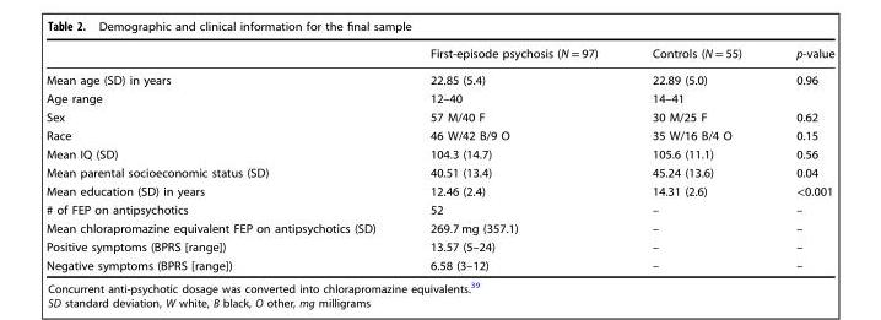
<table><thead><tr><td></td><td>First-episode psychosis (N = 97)</td><td>Controls (N = 55)</td><td>p-value</td></tr></thead><tbody><tr><td>Mean age (SD) in years</td><td>22.85 (5.4)</td><td>22.89 (5.0)</td><td>0.96</td></tr><tr><td>Age range</td><td>12–40</td><td>14–41</td><td></td></tr><tr><td>Sex</td><td>57 M/40 F</td><td>30 M/25 F</td><td>0.62</td></tr><tr><td>Race</td><td>46 W/42 B/9 O</td><td>35 W/16 B/4 O</td><td>0.15</td></tr><tr><td>Mean IQ (SD)</td><td>104.3 (14.7)</td><td>105.6 (11.1)</td><td>0.56</td></tr><tr><td>Mean parental socioeconomic status (SD)</td><td>40.51 (13.4)</td><td>45.24 (13.6)</td><td>0.04</td></tr><tr><td>Mean education (SD) in years</td><td>12.46 (2.4)</td><td>14.31 (2.6)</td><td>&lt;0.001</td></tr><tr><td># of FEP on antipsychotics</td><td>52</td><td>–</td><td>–</td></tr><tr><td>Mean chlorapromazine equivalent FEP on antipsychotics (SD)</td><td>269.7 mg (357.1)</td><td>–</td><td>–</td></tr><tr><td>Positive symptoms (BPRS [range])</td><td>13.57 (5–24)</td><td>–</td><td>–</td></tr><tr><td>Negative symptoms (BPRS [range])</td><td>6.58 (3–12)</td><td>–</td><td>–</td></tr></tbody></table>